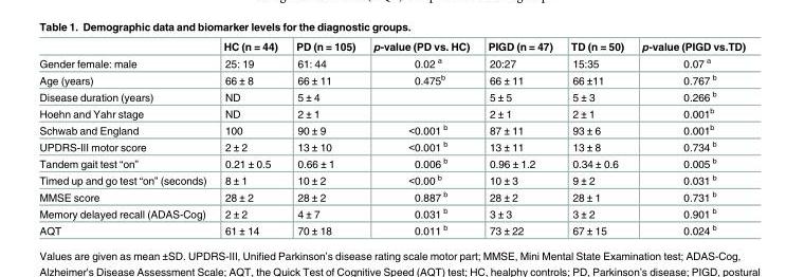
<table><thead><tr><td></td><td>HC (n = 44)</td><td>PD (n = 105)</td><td>p-value (PD vs. HC)</td><td>PIGD (n = 47)</td><td>TD (n = 50)</td><td>p-value (PIGD vs.TD)</td></tr></thead><tbody><tr><td>Gender female: male</td><td>25: 19</td><td>61: 44</td><td>0.02 <sup>a</sup></td><td>20:27</td><td>15:35</td><td>0.07 <sup>a</sup></td></tr><tr><td>Age (years)</td><td>66 ± 8</td><td>66 ± 11</td><td>0.475<sup>b</sup></td><td>66 ± 11</td><td>66 ±11</td><td>0.767 <sup>b</sup></td></tr><tr><td>Disease duration (years)</td><td>ND</td><td>5 ± 4</td><td></td><td>5 ± 5</td><td>5 ± 3</td><td>0.266 <sup>b</sup></td></tr><tr><td>Hoehn and Yahr stage</td><td>ND</td><td>2 ± 1</td><td></td><td>2 ± 1</td><td>2 ± 1</td><td>0.001<sup>b</sup></td></tr><tr><td>Schwab and England</td><td>100</td><td>90 ± 9</td><td>&lt;0.001 <sup>b</sup></td><td>87 ± 11</td><td>93 ± 6</td><td>0.001<sup>b</sup></td></tr><tr><td>UPDRS-III motor score</td><td>2 ± 2</td><td>13 ± 10</td><td>&lt;0.001 <sup>b</sup></td><td>13 ± 11</td><td>13 ± 8</td><td>0.734 <sup>b</sup></td></tr><tr><td>Tandem gait test “on”</td><td>0.21 ± 0.5</td><td>0.66 ± 1</td><td>0.006 <sup>b</sup></td><td>0.96 ± 1.2</td><td>0.34 ± 0.6</td><td>0.005 <sup>b</sup></td></tr><tr><td>Timed up and go test “on” (seconds)</td><td>8 ± 1</td><td>10 ± 2</td><td>&lt;0.00 <sup>b</sup></td><td>10 ± 3</td><td>9 ± 2</td><td>0.031 <sup>b</sup></td></tr><tr><td>MMSE score</td><td>28 ± 2</td><td>28 ± 2</td><td>0.887 <sup>b</sup></td><td>28 ± 2</td><td>28 ± 1</td><td>0.731 <sup>b</sup></td></tr><tr><td>Memory delayed recall (ADAS-Cog)</td><td>2 ± 2</td><td>4 ± 7</td><td>0.031 <sup>b</sup></td><td>3 ± 3</td><td>3 ± 2</td><td>0.901 <sup>b</sup></td></tr><tr><td>AQT</td><td>61 ± 14</td><td>70 ± 18</td><td>0.011 <sup>b</sup></td><td>73 ± 22</td><td>67 ± 15</td><td>0.024 <sup>b</sup></td></tr></tbody></table>